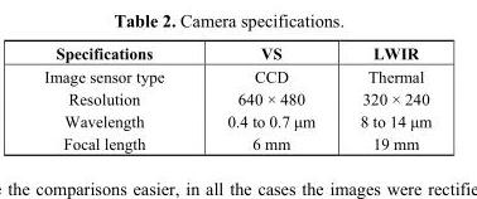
<table><thead><tr><td>Specifications</td><td>VS</td><td>LWIR</td></tr></thead><tbody><tr><td>Image sensor type</td><td>CCD</td><td>Thermal</td></tr><tr><td>Resolution</td><td>640 × 480</td><td>320 × 240</td></tr><tr><td>Wavelength</td><td>0.4 to 0.7 μm</td><td>8 to 14 μm</td></tr><tr><td>Focal length</td><td>6 mm</td><td>19 mm</td></tr></tbody></table>